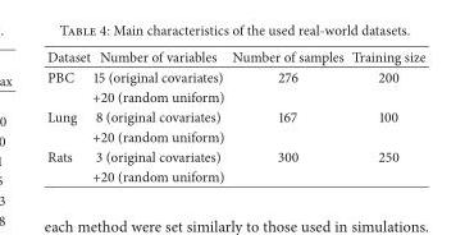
<table><thead><tr><td>Dataset</td><td>Number of variables</td><td>Number of samples</td><td>Training size</td></tr></thead><tbody><tr><td rowspan="2">PBC</td><td>15 (original covariates)</td><td>276</td><td>200</td></tr><tr><td>+20 (random uniform)</td><td></td><td></td></tr><tr><td rowspan="2">Lung</td><td>8 (original covariates)</td><td>167</td><td>100</td></tr><tr><td>+20 (random uniform)</td><td></td><td></td></tr><tr><td rowspan="2">Rats</td><td>3 (original covariates)</td><td>300</td><td>250</td></tr><tr><td>+20 (random uniform)</td><td></td><td></td></tr></tbody></table>